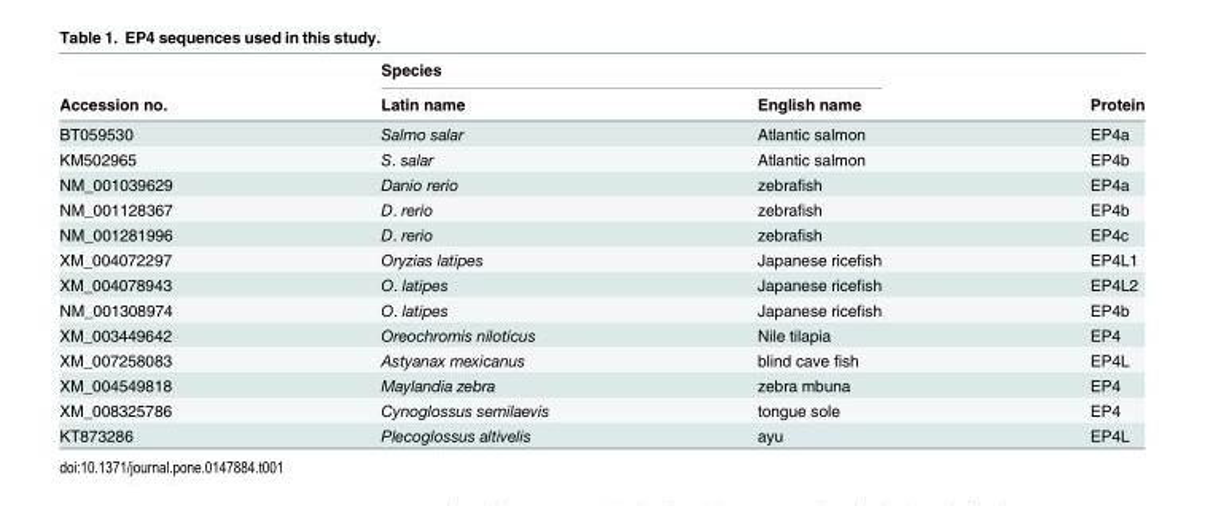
<table><thead><tr><td rowspan="2">Accession no.</td><td colspan="2">Species</td><td rowspan="2">Protein</td></tr><tr><td>Latin name</td><td>English name</td></tr></thead><tbody><tr><td>BT059530</td><td>Salmo salar</td><td>Atlantic salmon</td><td>EP4a</td></tr><tr><td>KM502965</td><td>S. salar</td><td>Atlantic salmon</td><td>EP4b</td></tr><tr><td>NM_001039629</td><td>Danio rerio</td><td>zebrafish</td><td>EP4a</td></tr><tr><td>NM_001128367</td><td>D. rerio</td><td>zebrafish</td><td>EP4b</td></tr><tr><td>NM_001281996</td><td>D. rerio</td><td>zebrafish</td><td>EP4c</td></tr><tr><td>XM_004072297</td><td>Oryzias latipes</td><td>Japanese ricefish</td><td>EP4L1</td></tr><tr><td>XM_004078943</td><td>O. latipes</td><td>Japanese ricefish</td><td>EP4L2</td></tr><tr><td>NM_001308974</td><td>O. latipes</td><td>Japanese ricefish</td><td>EP4b</td></tr><tr><td>XM_003449642</td><td>Oreochromis niloticus</td><td>Nile tilapia</td><td>EP4</td></tr><tr><td>XM_007258083</td><td>Astyanax mexicanus</td><td>blind cave fish</td><td>EP4L</td></tr><tr><td>XM_004549818</td><td>Maylandia zebra</td><td>zebra mbuna</td><td>EP4</td></tr><tr><td>XM_008325786</td><td>Cynoglossus semilaevis</td><td>tongue sole</td><td>EP4</td></tr><tr><td>KT873286</td><td>Plecoglossus altivelis</td><td>ayu</td><td>EP4L</td></tr></tbody></table>